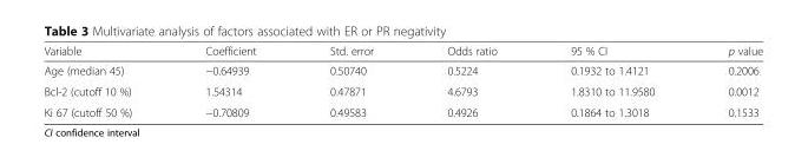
<table><thead><tr><td>Variable</td><td>Coefficient</td><td>Std. error</td><td>Odds ratio</td><td>95 % CI</td><td>p value</td></tr></thead><tbody><tr><td>Age (median 45)</td><td>−0.64939</td><td>0.50740</td><td>0.5224</td><td>0.1932 to 1.4121</td><td>0.2006</td></tr><tr><td>Bcl-2 (cutoff 10 %)</td><td>1.54314</td><td>0.47871</td><td>4.6793</td><td>1.8310 to 11.9580</td><td>0.0012</td></tr><tr><td>Ki 67 (cutoff 50 %)</td><td>−0.70809</td><td>0.49583</td><td>0.4926</td><td>0.1864 to 1.3018</td><td>0.1533</td></tr></tbody></table>